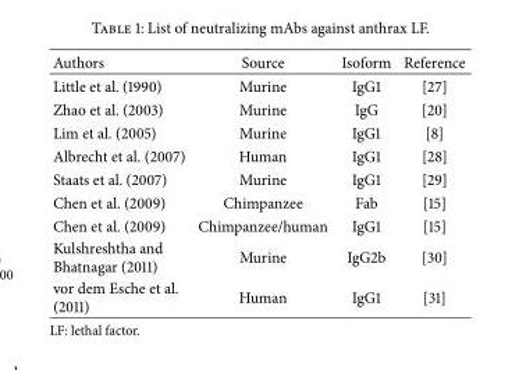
<table><thead><tr><td>Authors</td><td>Source</td><td>Isoform</td><td>Reference</td></tr></thead><tbody><tr><td>Little et al. (1990)</td><td>Murine</td><td>IgG1</td><td>[27]</td></tr><tr><td>Zhao et al. (2003)</td><td>Murine</td><td>IgG</td><td>[20]</td></tr><tr><td>Lim et al. (2005)</td><td>Murine</td><td>IgG1</td><td>[8]</td></tr><tr><td>Albrecht et al. (2007)</td><td>Human</td><td>IgG1</td><td>[28]</td></tr><tr><td>Staats et al. (2007)</td><td>Murine</td><td>IgG1</td><td>[29]</td></tr><tr><td>Chen et al. (2009)</td><td>Chimpanzee</td><td>Fab</td><td>[15]</td></tr><tr><td>Chen et al. (2009)</td><td>Chimpanzee/human</td><td>IgG1</td><td>[15]</td></tr><tr><td>Kulshreshtha and Bhatnagar (2011)</td><td>Murine</td><td>IgG2b</td><td>[30]</td></tr><tr><td>vor dem Esche et al. (2011)</td><td>Human</td><td>IgG1</td><td>[31]</td></tr></tbody></table>